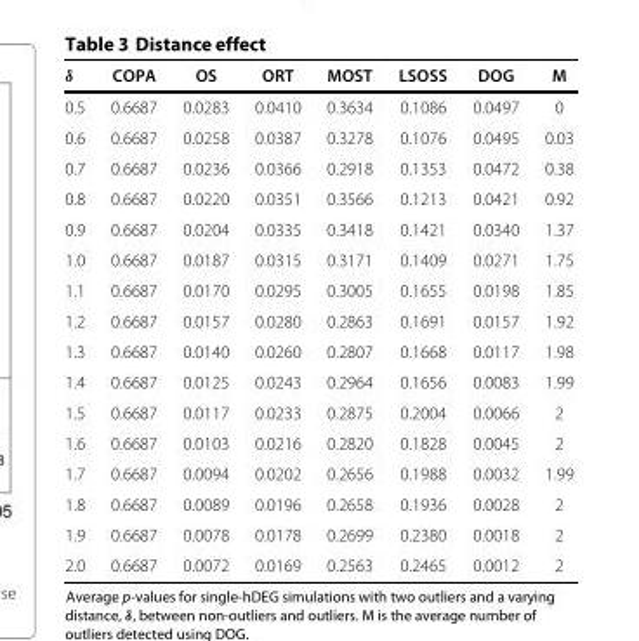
<table><thead><tr><td>δ</td><td>COPA</td><td>OS</td><td>ORT</td><td>MOST</td><td>LSOSS</td><td>DOG</td><td>M</td></tr></thead><tbody><tr><td>0.5</td><td>0.6687</td><td>0.0283</td><td>0.0410</td><td>0.3634</td><td>0.1086</td><td>0.0497</td><td>0</td></tr><tr><td>0.6</td><td>0.6687</td><td>0.0258</td><td>0.0387</td><td>0.3278</td><td>0.1076</td><td>0.0495</td><td>0.03</td></tr><tr><td>0.7</td><td>0.6687</td><td>0.0236</td><td>0.0366</td><td>0.2918</td><td>0.1353</td><td>0.0472</td><td>0.38</td></tr><tr><td>0.8</td><td>0.6687</td><td>0.0220</td><td>0.0351</td><td>0.3566</td><td>0.1213</td><td>0.0421</td><td>0.92</td></tr><tr><td>0.9</td><td>0.6687</td><td>0.0204</td><td>0.0335</td><td>0.3418</td><td>0.1421</td><td>0.0340</td><td>1.37</td></tr><tr><td>1.0</td><td>0.6687</td><td>0.0187</td><td>0.0315</td><td>0.3171</td><td>0.1409</td><td>0.0271</td><td>1.75</td></tr><tr><td>1.1</td><td>0.6687</td><td>0.0170</td><td>0.0295</td><td>0.3005</td><td>0.1655</td><td>0.0198</td><td>1.85</td></tr><tr><td>1.2</td><td>0.6687</td><td>0.0157</td><td>0.0280</td><td>0.2863</td><td>0.1691</td><td>0.0157</td><td>1.92</td></tr><tr><td>1.3</td><td>0.6687</td><td>0.0140</td><td>0.0260</td><td>0.2807</td><td>0.1668</td><td>0.0117</td><td>1.98</td></tr><tr><td>1.4</td><td>0.6687</td><td>0.0125</td><td>0.0243</td><td>0.2964</td><td>0.1656</td><td>0.0083</td><td>1.99</td></tr><tr><td>1.5</td><td>0.6687</td><td>0.0117</td><td>0.0233</td><td>0.2875</td><td>0.2004</td><td>0.0066</td><td>2</td></tr><tr><td>1.6</td><td>0.6687</td><td>0.0103</td><td>0.0216</td><td>0.2820</td><td>0.1828</td><td>0.0045</td><td>2</td></tr><tr><td>1.7</td><td>0.6687</td><td>0.0094</td><td>0.0202</td><td>0.2656</td><td>0.1988</td><td>0.0032</td><td>1.99</td></tr><tr><td>1.8</td><td>0.6687</td><td>0.0089</td><td>0.0196</td><td>0.2658</td><td>0.1936</td><td>0.0028</td><td>2</td></tr><tr><td>1.9</td><td>0.6687</td><td>0.0078</td><td>0.0178</td><td>0.2699</td><td>0.2380</td><td>0.0018</td><td>2</td></tr><tr><td>2.0</td><td>0.6687</td><td>0.0072</td><td>0.0169</td><td>0.2563</td><td>0.2465</td><td>0.0012</td><td>2</td></tr></tbody></table>